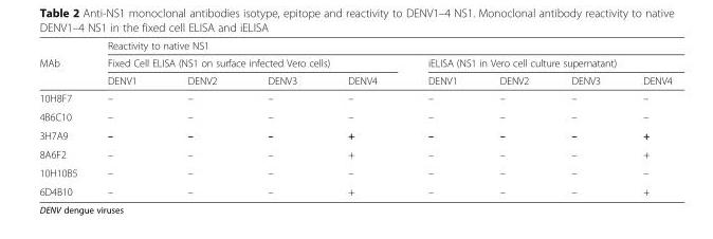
<table><thead><tr><td rowspan="3">MAb</td><td colspan="8">Reactivity to native NS1</td></tr><tr><td colspan="4">Fixed Cell ELISA (NS1 on surface infected Vero cells)</td><td colspan="4">iELISA (NS1 in Vero cell culture supernatant)</td></tr><tr><td>DENV1</td><td>DENV2</td><td>DENV3</td><td>DENV4</td><td>DENV1</td><td>DENV2</td><td>DENV3</td><td>DENV4</td></tr></thead><tbody><tr><td>10H8F7</td><td>–</td><td>–</td><td>–</td><td>–</td><td>–</td><td>–</td><td>–</td><td>–</td></tr><tr><td>4B6C10</td><td>–</td><td>–</td><td>–</td><td>–</td><td>–</td><td>–</td><td>–</td><td>–</td></tr><tr><td>3H7A9</td><td>–</td><td>–</td><td>–</td><td>+</td><td>–</td><td>–</td><td>–</td><td>+</td></tr><tr><td>8A6F2</td><td>–</td><td>–</td><td>–</td><td>+</td><td>–</td><td>–</td><td>–</td><td>+</td></tr><tr><td>10H10B5</td><td>–</td><td>–</td><td>–</td><td>–</td><td>–</td><td>–</td><td>–</td><td>–</td></tr><tr><td>6D4B10</td><td>–</td><td>–</td><td>–</td><td>+</td><td>–</td><td>–</td><td>–</td><td>+</td></tr></tbody></table>